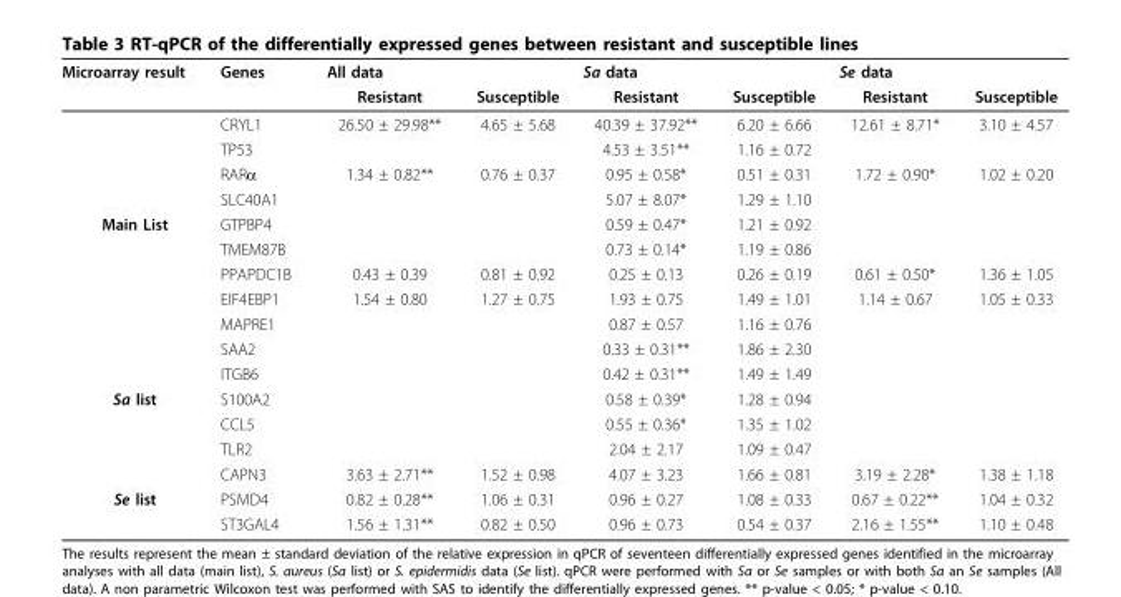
<table><thead><tr><td rowspan="2">Microarray result</td><td rowspan="2">Genes</td><td colspan="2">All data</td><td colspan="2">Sa data</td><td colspan="2">Se data</td></tr><tr><td>Resistant</td><td>Susceptible</td><td>Resistant</td><td>Susceptible</td><td>Resistant</td><td>Susceptible</td></tr></thead><tbody><tr><td></td><td>CRYL1</td><td>26.50 ± 29.98**</td><td>4.65 ± 5.68</td><td>40.39 ± 37.92**</td><td>6.20 ± 6.66</td><td>12.61 ± 8.71*</td><td>3.10 ± 4.57</td></tr><tr><td></td><td>TP53</td><td></td><td></td><td>4.53 ± 3.51**</td><td>1.16 ± 0.72</td><td></td><td></td></tr><tr><td></td><td>RARα</td><td>1.34 ± 0.82**</td><td>0.76 ± 0.37</td><td>0.95 ± 0.58*</td><td>0.51 ± 0.31</td><td>1.72 ± 0.90*</td><td>1.02 ± 0.20</td></tr><tr><td></td><td>SLC40A1</td><td></td><td></td><td>5.07 ± 8.07*</td><td>1.29 ± 1.10</td><td></td><td></td></tr><tr><td rowspan="7">Main List</td><td>GTPBP4</td><td></td><td></td><td>0.59 ± 0.47*</td><td>1.21 ± 0.92</td><td></td><td></td></tr><tr><td>TMEM87B</td><td></td><td></td><td>0.73 ± 0.14*</td><td>1.19 ± 0.86</td><td></td><td></td></tr><tr><td>PPAPDC1B</td><td>0.43 ± 0.39</td><td>0.81 ± 0.92</td><td>0.25 ± 0.13</td><td>0.26 ± 0.19</td><td>0.61 ± 0.50*</td><td>1.36 ± 1.05</td></tr><tr><td>EIF4EBP1</td><td>1.54 ± 0.80</td><td>1.27 ± 0.75</td><td>1.93 ± 0.75</td><td>1.49 ± 1.01</td><td>1.14 ± 0.67</td><td>1.05 ± 0.33</td></tr><tr><td>MAPRE1</td><td></td><td></td><td>0.87 ± 0.57</td><td>1.16 ± 0.76</td><td></td><td></td></tr><tr><td>SAA2</td><td></td><td></td><td>0.33 ± 0.31**</td><td>1.86 ± 2.30</td><td></td><td></td></tr><tr><td>ITGB6</td><td></td><td></td><td>0.42 ± 0.31**</td><td>1.49 ± 1.49</td><td></td><td></td></tr><tr><td rowspan="4">Sa list</td><td>S100A2</td><td></td><td></td><td>0.58 ± 0.39*</td><td>1.28 ± 0.94</td><td></td><td></td></tr><tr><td>CCL5</td><td></td><td></td><td>0.55 ± 0.36*</td><td>1.35 ± 1.02</td><td></td><td></td></tr><tr><td>TLR2</td><td></td><td></td><td>2.04 ± 2.17</td><td>1.09 ± 0.47</td><td></td><td></td></tr><tr><td>CAPN3</td><td>3.63 ± 2.71**</td><td>1.52 ± 0.98</td><td>4.07 ± 3.23</td><td>1.66 ± 0.81</td><td>3.19 ± 2.28*</td><td>1.38 ± 1.18</td></tr><tr><td rowspan="2">Se list</td><td>PSMD4</td><td>0.82 ± 0.28**</td><td>1.06 ± 0.31</td><td>0.96 ± 0.27</td><td>1.08 ± 0.33</td><td>0.67 ± 0.22**</td><td>1.04 ± 0.32</td></tr><tr><td>ST3GAL4</td><td>1.56 ± 1.31**</td><td>0.82 ± 0.50</td><td>0.96 ± 0.73</td><td>0.54 ± 0.37</td><td>2.16 ± 1.55**</td><td>1.10 ± 0.48</td></tr></tbody></table>